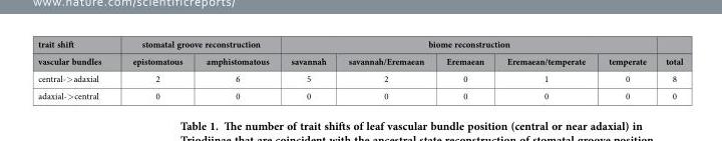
<table><thead><tr><td rowspan="2">trait shift vascular bundles</td><td colspan="2">stomatal groove reconstruction</td><td colspan="5">biome reconstruction</td><td rowspan="2">total</td></tr><tr><td>epistomatous</td><td>amphistomatous</td><td>savannah</td><td>savannah/Eremaean</td><td>Eremaean</td><td>Eremaean/temperate</td><td>temperate</td></tr></thead><tbody><tr><td>central-&gt; adaxial</td><td>2</td><td>6</td><td>5</td><td>2</td><td>0</td><td>1</td><td>0</td><td>8</td></tr><tr><td>adaxial-&gt; central</td><td>0</td><td>0</td><td>0</td><td>0</td><td>0</td><td>0</td><td>0</td><td>0</td></tr></tbody></table>